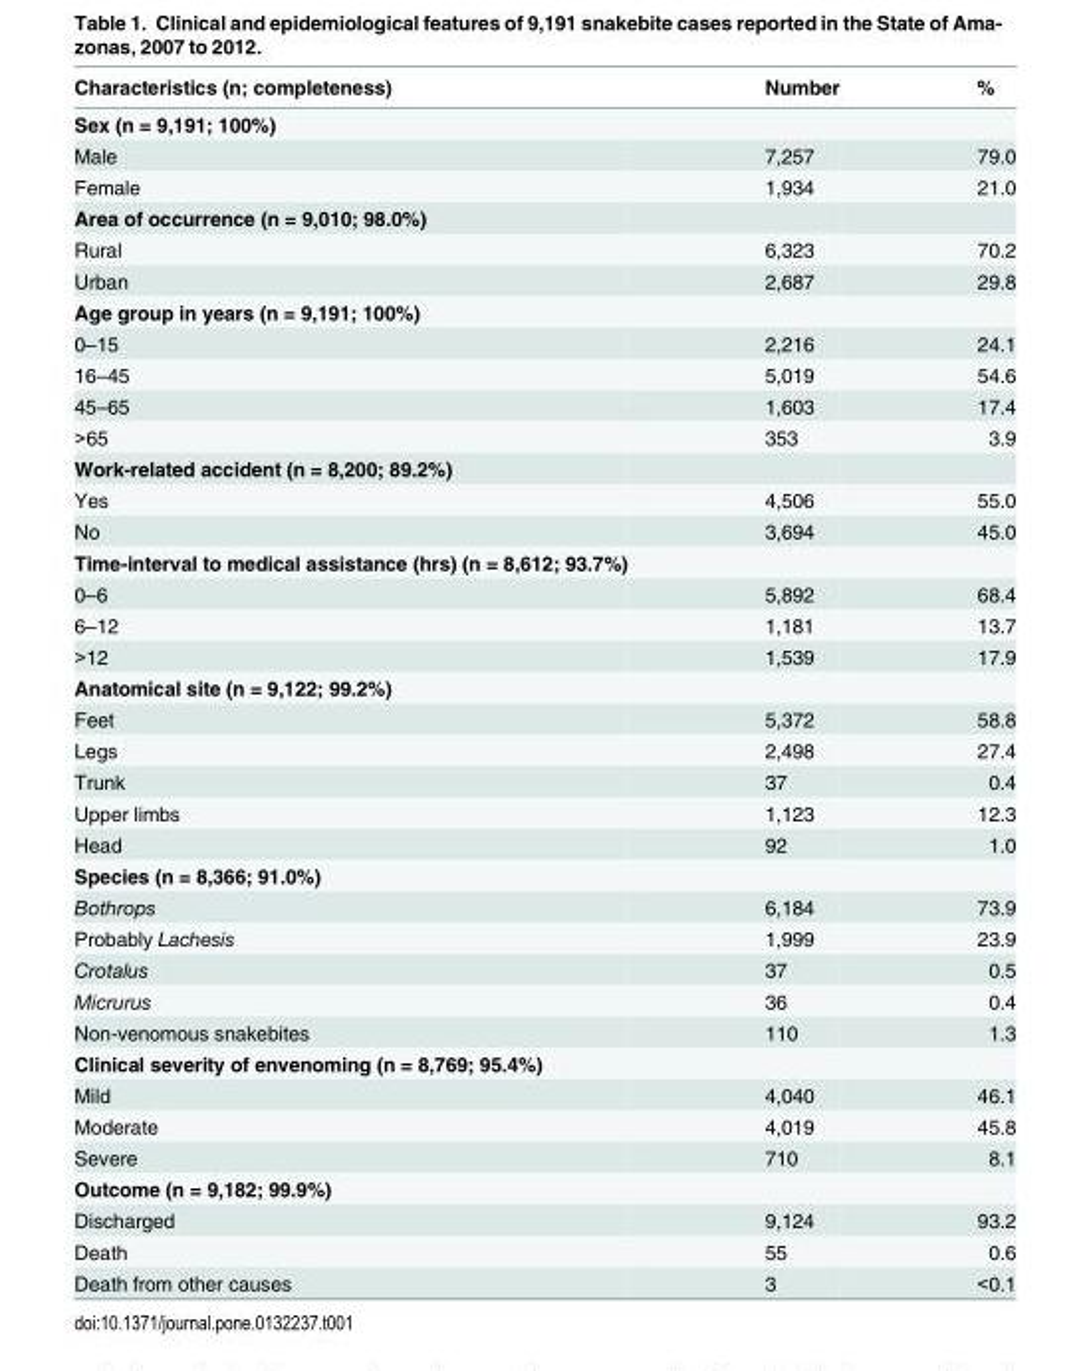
<table><thead><tr><td>Characteristics (n; completeness)</td><td>Number</td><td>%</td></tr></thead><tbody><tr><td colspan="3">Sex (n = 9,191; 100%)</td></tr><tr><td>Male</td><td>7,257</td><td>79.0</td></tr><tr><td>Female</td><td>1,934</td><td>21.0</td></tr><tr><td colspan="3">Area of occurrence (n = 9,010; 98.0%)</td></tr><tr><td>Rural</td><td>6,323</td><td>70.2</td></tr><tr><td>Urban</td><td>2,687</td><td>29.8</td></tr><tr><td colspan="3">Age group in years (n = 9,191; 100%)</td></tr><tr><td>0–15</td><td>2,216</td><td>24.1</td></tr><tr><td>16–45</td><td>5,019</td><td>54.6</td></tr><tr><td>45–65</td><td>1,603</td><td>17.4</td></tr><tr><td>&gt;65</td><td>353</td><td>3.9</td></tr><tr><td colspan="3">Work-related accident (n = 8,200; 89.2%)</td></tr><tr><td>Yes</td><td>4,506</td><td>55.0</td></tr><tr><td>No</td><td>3,694</td><td>45.0</td></tr><tr><td colspan="3">Time-interval to medical assistance (hrs) (n = 8,612; 93.7%)</td></tr><tr><td>0–6</td><td>5,892</td><td>68.4</td></tr><tr><td>6–12</td><td>1,181</td><td>13.7</td></tr><tr><td>&gt;12</td><td>1,539</td><td>17.9</td></tr><tr><td colspan="3">Anatomical site (n = 9,122; 99.2%)</td></tr><tr><td>Feet</td><td>5,372</td><td>58.8</td></tr><tr><td>Legs</td><td>2,498</td><td>27.4</td></tr><tr><td>Trunk</td><td>37</td><td>0.4</td></tr><tr><td>Upper limbs</td><td>1,123</td><td>12.3</td></tr><tr><td>Head</td><td>92</td><td>1.0</td></tr><tr><td colspan="3">Species (n = 8,366; 91.0%)</td></tr><tr><td>Bothrops</td><td>6,184</td><td>73.9</td></tr><tr><td>Probably Lachesis</td><td>1,999</td><td>23.9</td></tr><tr><td>Crotalus</td><td>37</td><td>0.5</td></tr><tr><td>Micrurus</td><td>36</td><td>0.4</td></tr><tr><td>Non-venomous snakebites</td><td>110</td><td>1.3</td></tr><tr><td colspan="3">Clinical severity of envenoming (n = 8,769; 95.4%)</td></tr><tr><td>Mild</td><td>4,040</td><td>46.1</td></tr><tr><td>Moderate</td><td>4,019</td><td>45.8</td></tr><tr><td>Severe</td><td>710</td><td>8.1</td></tr><tr><td colspan="3">Outcome (n = 9,182; 99.9%)</td></tr><tr><td>Discharged</td><td>9,124</td><td>93.2</td></tr><tr><td>Death</td><td>55</td><td>0.6</td></tr><tr><td>Death from other causes</td><td>3</td><td>&lt;0.1</td></tr></tbody></table>